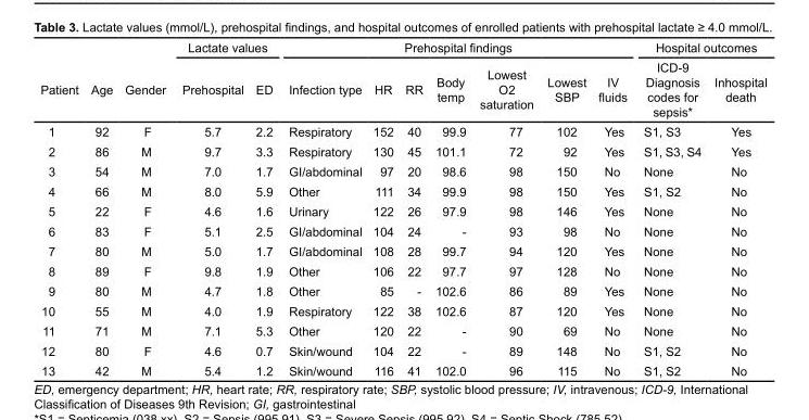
<table><thead><tr><td rowspan="2">Patient</td><td rowspan="2">Age</td><td rowspan="2">Gender</td><td colspan="2">Lactate values</td><td colspan="7">Prehospital findings</td><td colspan="2">Hospital outcomes</td></tr><tr><td>Prehospital</td><td>ED</td><td>Infection type</td><td>HR</td><td>RR</td><td>Body temp</td><td>Lowest O2 saturation</td><td>Lowest SBP</td><td>IV fluids</td><td>ICD-9 Diagnosis codes for sepsis*</td><td>Inhospital death</td></tr></thead><tbody><tr><td>1</td><td>92</td><td>F</td><td>5.7</td><td>2.2</td><td>Respiratory</td><td>152</td><td>40</td><td>99.9</td><td>77</td><td>102</td><td>Yes</td><td>S1, S3</td><td>Yes</td></tr><tr><td>2</td><td>86</td><td>M</td><td>9.7</td><td>3.3</td><td>Respiratory</td><td>130</td><td>45</td><td>101.1</td><td>72</td><td>92</td><td>Yes</td><td>S1, S3, S4</td><td>Yes</td></tr><tr><td>3</td><td>54</td><td>M</td><td>7.0</td><td>1.7</td><td>GI/abdominal</td><td>97</td><td>20</td><td>98.6</td><td>98</td><td>150</td><td>No</td><td>None</td><td>No</td></tr><tr><td>4</td><td>66</td><td>M</td><td>8.0</td><td>5.9</td><td>Other</td><td>111</td><td>34</td><td>99.9</td><td>98</td><td>150</td><td>Yes</td><td>S1, S2</td><td>No</td></tr><tr><td>5</td><td>22</td><td>F</td><td>4.6</td><td>1.6</td><td>Urinary</td><td>122</td><td>26</td><td>97.9</td><td>98</td><td>146</td><td>Yes</td><td>None</td><td>No</td></tr><tr><td>6</td><td>83</td><td>F</td><td>5.1</td><td>2.5</td><td>GI/abdominal</td><td>104</td><td>24</td><td>-</td><td>93</td><td>98</td><td>No</td><td>None</td><td>No</td></tr><tr><td>7</td><td>80</td><td>M</td><td>5.0</td><td>1.7</td><td>GI/abdominal</td><td>108</td><td>28</td><td>99.7</td><td>94</td><td>120</td><td>Yes</td><td>None</td><td>No</td></tr><tr><td>8</td><td>89</td><td>F</td><td>9.8</td><td>1.9</td><td>Other</td><td>106</td><td>22</td><td>97.7</td><td>97</td><td>128</td><td>No</td><td>None</td><td>No</td></tr><tr><td>9</td><td>80</td><td>M</td><td>4.7</td><td>1.8</td><td>Other</td><td>85</td><td>-</td><td>102.6</td><td>86</td><td>89</td><td>Yes</td><td>None</td><td>No</td></tr><tr><td>10</td><td>55</td><td>M</td><td>4.0</td><td>1.9</td><td>Respiratory</td><td>122</td><td>38</td><td>102.6</td><td>87</td><td>120</td><td>Yes</td><td>None</td><td>No</td></tr><tr><td>11</td><td>71</td><td>M</td><td>7.1</td><td>5.3</td><td>Other</td><td>120</td><td>22</td><td>-</td><td>90</td><td>69</td><td>No</td><td>None</td><td>No</td></tr><tr><td>12</td><td>80</td><td>F</td><td>4.6</td><td>0.7</td><td>Skin/wound</td><td>104</td><td>22</td><td>-</td><td>89</td><td>148</td><td>No</td><td>S1, S2</td><td>No</td></tr><tr><td>13</td><td>42</td><td>M</td><td>5.4</td><td>1.2</td><td>Skin/wound</td><td>116</td><td>41</td><td>102.0</td><td>96</td><td>115</td><td>No</td><td>S1, S2</td><td>No</td></tr></tbody></table>